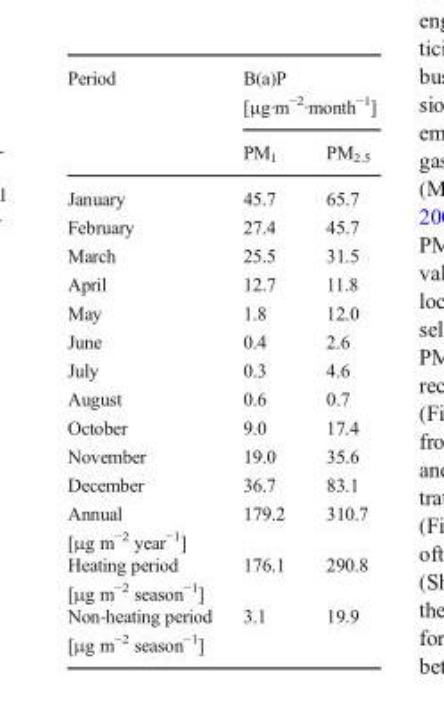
<table><thead><tr><td rowspan="2">Period</td><td colspan="2">B(a)P [μg·m<sup>−2</sup>·month<sup>−1</sup>]</td></tr><tr><td>PM<sub>1</sub></td><td>PM<sub>2.5</sub></td></tr></thead><tbody><tr><td>January</td><td>45.7</td><td>65.7</td></tr><tr><td>February</td><td>27.4</td><td>45.7</td></tr><tr><td>March</td><td>25.5</td><td>31.5</td></tr><tr><td>April</td><td>12.7</td><td>11.8</td></tr><tr><td>May</td><td>1.8</td><td>12.0</td></tr><tr><td>June</td><td>0.4</td><td>2.6</td></tr><tr><td>July</td><td>0.3</td><td>4.6</td></tr><tr><td>August</td><td>0.6</td><td>0.7</td></tr><tr><td>October</td><td>9.0</td><td>17.4</td></tr><tr><td>November</td><td>19.0</td><td>35.6</td></tr><tr><td>December</td><td>36.7</td><td>83.1</td></tr><tr><td>Annual [μg m<sup>−2</sup> year<sup>−1</sup>]</td><td>179.2</td><td>310.7</td></tr><tr><td>Heating period [μg m<sup>−2</sup> season<sup>−1</sup>]</td><td>176.1</td><td>290.8</td></tr><tr><td>Non-heating period [μg m<sup>−2</sup> season<sup>−1</sup>]</td><td>3.1</td><td>19.9</td></tr></tbody></table>